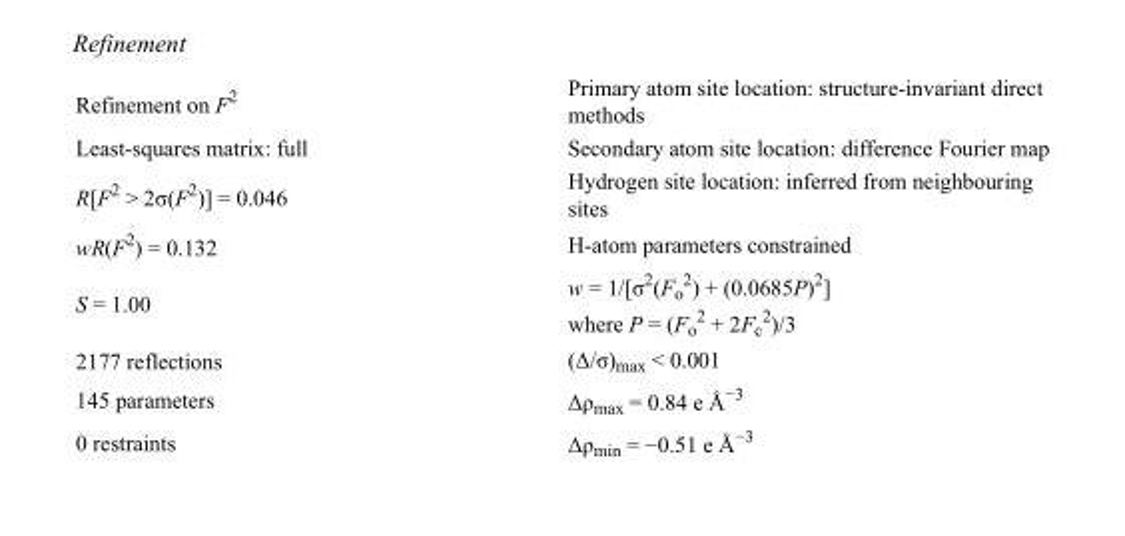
<table><tbody><tr><td>Refinement on F<sup>2</sup></td><td>Primary atom site location: structure-invariant direct methods</td></tr><tr><td>Least-squares matrix: full</td><td>Secondary atom site location: difference Fourier map</td></tr><tr><td>R[F<sup>2</sup> &gt; 2σ(F<sup>2</sup>)] = 0.046</td><td>Hydrogen site location: inferred from neighbouring sites</td></tr><tr><td>wR(F<sup>2</sup>) = 0.132</td><td>H-atom parameters constrained</td></tr><tr><td>S = 1.00</td><td>w = 1/[σ<sup>2</sup>(F<sub>o</sub> <sup>2</sup>) + (0.0685P)<sup>2</sup>] where P = (F<sub>o</sub> <sup>2</sup> + 2F<sub>c</sub> <sup>2</sup>)/3</td></tr><tr><td>2177 reflections</td><td>(Δ/σ)<sub>max</sub> &lt; 0.001</td></tr><tr><td>145 parameters</td><td>Δρ<sub>max</sub> = 0.84 e Å<sup>−3</sup></td></tr><tr><td>0 restraints</td><td>Δρ<sub>min</sub> = −0.51 e Å<sup>−3</sup></td></tr></tbody></table>